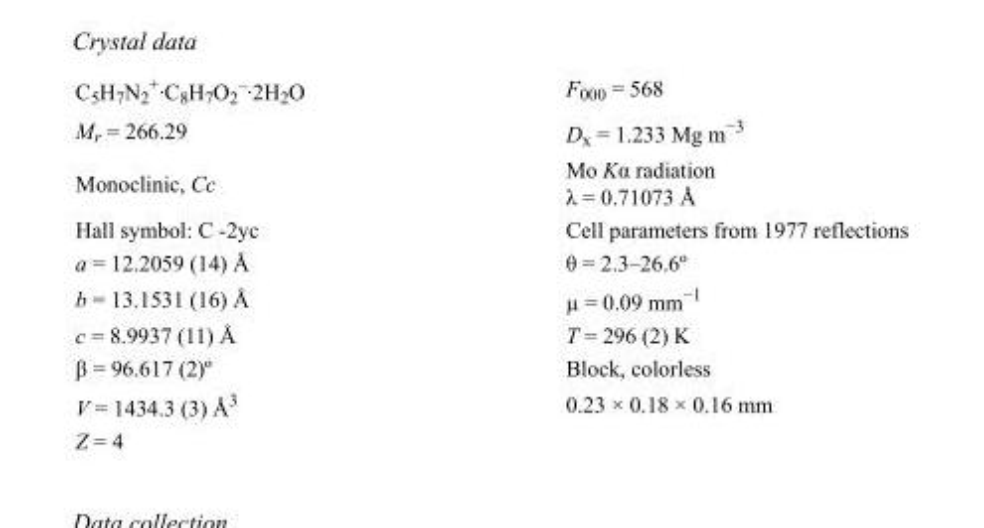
<table><tbody><tr><td>C<sub>5</sub>H<sub>7</sub>N<sub>2</sub> <sup>+</sup>·C<sub>8</sub>H<sub>7</sub>O<sub>2</sub> <sup>–</sup>·2H<sub>2</sub>O</td><td>F000 = 568</td></tr><tr><td>M<sub>r</sub> = 266.29</td><td>D<sub>x</sub> = 1.233 Mg m<sup>−3</sup></td></tr><tr><td>Monoclinic, Cc</td><td>Mo Kα radiation λ = 0.71073 Å</td></tr><tr><td>Hall symbol: C -2yc</td><td>Cell parameters from 1977 reflections</td></tr><tr><td>a = 12.2059 (14) Å</td><td>θ = 2.3–26.6º</td></tr><tr><td>b = 13.1531 (16) Å</td><td>µ = 0.09 mm<sup>−1</sup></td></tr><tr><td>c = 8.9937 (11) Å</td><td>T = 296 (2) K</td></tr><tr><td>β = 96.617 (2)º</td><td>Block, colorless</td></tr><tr><td>V = 1434.3 (3) Å<sup>3</sup></td><td>0.23 × 0.18 × 0.16 mm</td></tr><tr><td>Z = 4</td><td></td></tr></tbody></table>